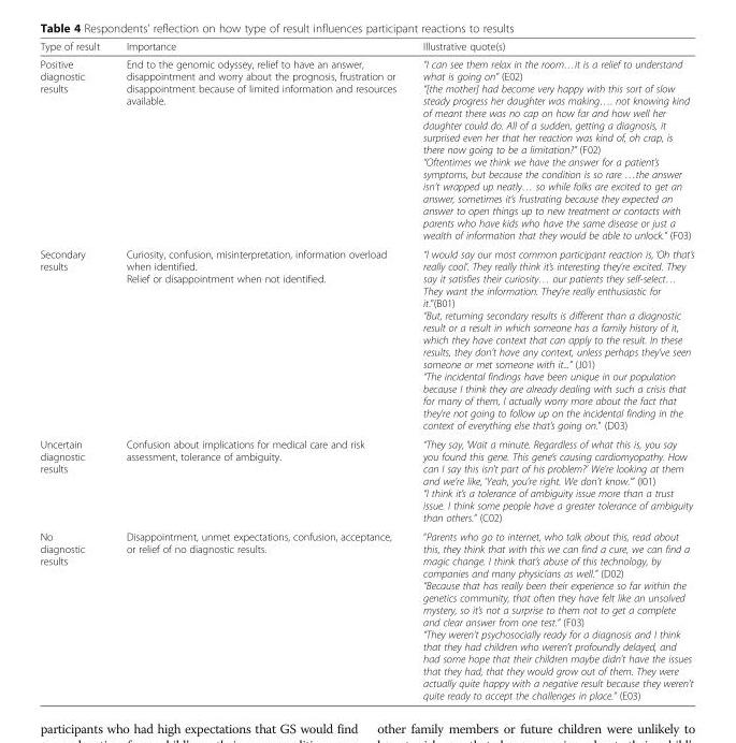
<table><thead><tr><td>Type of result</td><td>Importance</td><td>Illustrative quote(s)</td></tr></thead><tbody><tr><td>Positive diagnostic results</td><td>End to the genomic odyssey, relief to have an answer, disappointment and worry about the prognosis, frustration or disappointment because of limited information and resources available.</td><td>“I can see them relax in the room…it is a relief to understand what is going on” (E02) “[the mother] had become very happy with this sort of slow steady progress her daughter was making…. not knowing kind of meant there was no cap on how far and how well her daughter could do. All of a sudden, getting a diagnosis, it surprised even her that her reaction was kind of, oh crap, is there now going to be a limitation?” (F02) “Oftentimes we think we have the answer for a patient’s symptoms, but because the condition is so rare …the answer isn’t wrapped up neatly… so while folks are excited to get an answer, sometimes it’s frustrating because they expected an answer to open things up to new treatment or contacts with parents who have kids who have the same disease or just a wealth of information that they would be able to unlock.” (F03)</td></tr><tr><td>Secondary results</td><td>Curiosity, confusion, misinterpretation, information overload when identified. Relief or disappointment when not identified.</td><td>“I would say our most common participant reaction is, ‘Oh that’s really cool’. They really think it’s interesting they’re excited. They say it satisfies their curiosity… our patients they self-select… They want the information. They’re really enthusiastic for it.”(B01) “But, returning secondary results is different than a diagnostic result or a result in which someone has a family history of it, which they have context that can apply to the result. In these results, they don’t have any context, unless perhaps they’ve seen someone or met someone with it...” (J01) “The incidental findings have been unique in our population because I think they are already dealing with such a crisis that for many of them, I actually worry more about the fact that they’re not going to follow up on the incidental finding in the context of everything else that’s going on.” (D03)</td></tr><tr><td>Uncertain diagnostic results</td><td>Confusion about implications for medical care and risk assessment, tolerance of ambiguity.</td><td>“They say, ‘Wait a minute. Regardless of what this is, you say you found this gene. This gene’s causing cardiomyopathy. How can I say this isn’t part of his problem?’ We’re looking at them and we’re like, ‘Yeah, you’re right. We don’t know.’” (I01) “I think it’s a tolerance of ambiguity issue more than a trust issue. I think some people have a greater tolerance of ambiguity than others.” (C02)</td></tr><tr><td>No diagnostic results</td><td>Disappointment, unmet expectations, confusion, acceptance, or relief of no diagnostic results.</td><td>“Parents who go to internet, who talk about this, read about this, they think that with this we can find a cure, we can find a magic change. I think that’s abuse of this technology, by companies and many physicians as well.” (D02) “Because that has really been their experience so far within the genetics community, that often they have felt like an unsolved mystery, so it’s not a surprise to them not to get a complete and clear answer from one test.” (F03) “They weren’t psychosocially ready for a diagnosis and I think that they had children who weren’t profoundly delayed, and had some hope that their children maybe didn’t have the issues that they had, that they would grow out of them. They were actually quite happy with a negative result because they weren’t quite ready to accept the challenges in place.” (E03)</td></tr></tbody></table>